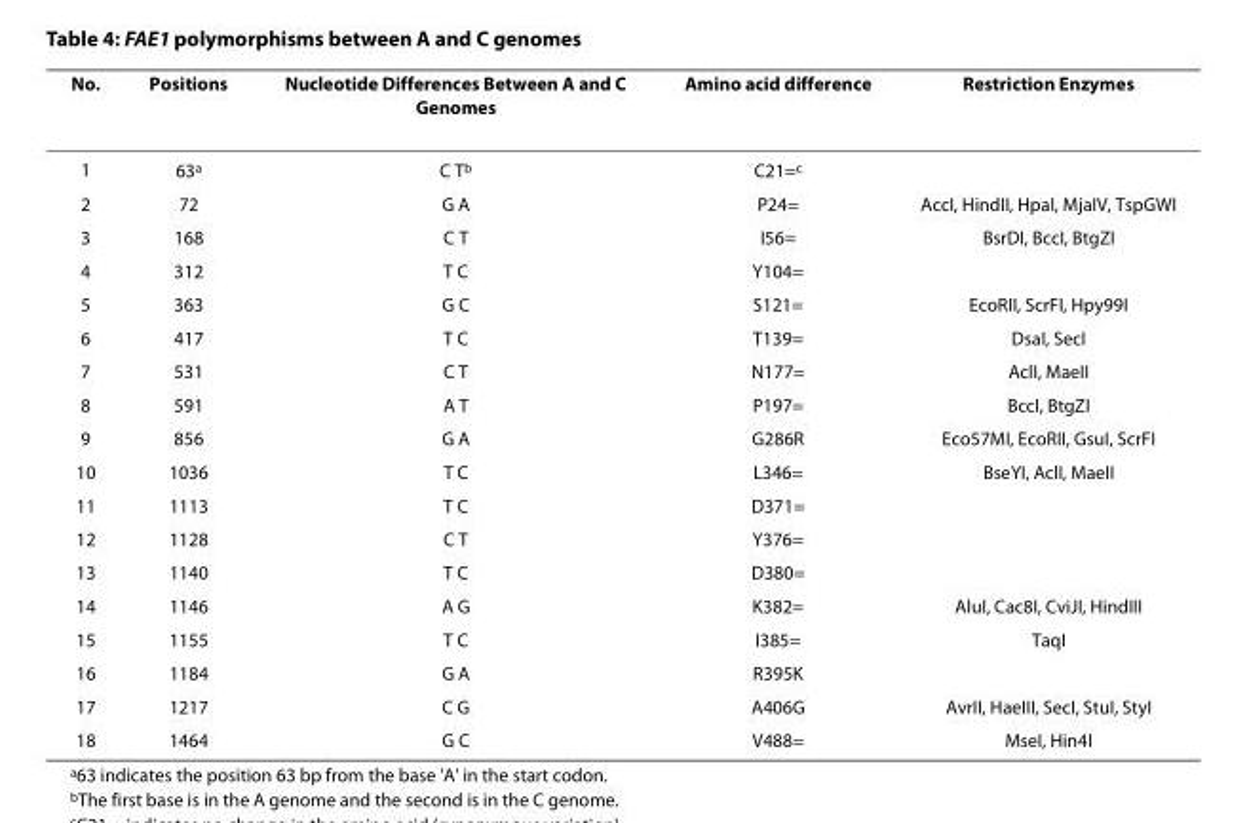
<table><thead><tr><td>No.</td><td>Positions</td><td>Nucleotide Differences Between A and C Genomes</td><td>Amino acid difference</td><td>Restriction Enzymes</td></tr></thead><tbody><tr><td>1</td><td>63<sup>a</sup></td><td>C T<sup>b</sup></td><td>C21=<sup>c</sup></td><td></td></tr><tr><td>2</td><td>72</td><td>G A</td><td>P24=</td><td>AccI, HindII, HpaI, MjaIV, TspGWI</td></tr><tr><td>3</td><td>168</td><td>C T</td><td>I56=</td><td>BsrDI, BccI, BtgZI</td></tr><tr><td>4</td><td>312</td><td>T C</td><td>Y104=</td><td></td></tr><tr><td>5</td><td>363</td><td>G C</td><td>S121=</td><td>EcoRII, ScrFI, Hpy99I</td></tr><tr><td>6</td><td>417</td><td>T C</td><td>T139=</td><td>DsaI, SecI</td></tr><tr><td>7</td><td>531</td><td>C T</td><td>N177=</td><td>AclI, MaeII</td></tr><tr><td>8</td><td>591</td><td>A T</td><td>P197=</td><td>BccI, BtgZI</td></tr><tr><td>9</td><td>856</td><td>G A</td><td>G286R</td><td>Eco57MI, EcoRII, GsuI, ScrFI</td></tr><tr><td>10</td><td>1036</td><td>T C</td><td>L346=</td><td>BseYI, AclI, MaeII</td></tr><tr><td>11</td><td>1113</td><td>T C</td><td>D371=</td><td></td></tr><tr><td>12</td><td>1128</td><td>C T</td><td>Y376=</td><td></td></tr><tr><td>13</td><td>1140</td><td>T C</td><td>D380=</td><td></td></tr><tr><td>14</td><td>1146</td><td>A G</td><td>K382=</td><td>AluI, Cac8I, CviJI, HindIII</td></tr><tr><td>15</td><td>1155</td><td>T C</td><td>I385=</td><td>TaqI</td></tr><tr><td>16</td><td>1184</td><td>G A</td><td>R395K</td><td></td></tr><tr><td>17</td><td>1217</td><td>C G</td><td>A406G</td><td>AvrII, HaeIII, SecI, StuI, StyI</td></tr><tr><td>18</td><td>1464</td><td>G C</td><td>V488=</td><td>MseI, Hin4I</td></tr></tbody></table>